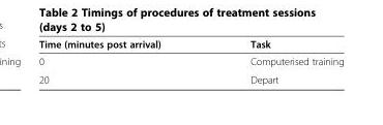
<table><thead><tr><td>Time (minutes post arrival)</td><td>Task</td></tr></thead><tbody><tr><td>0</td><td>Computerised training</td></tr><tr><td>20</td><td>Depart</td></tr></tbody></table>